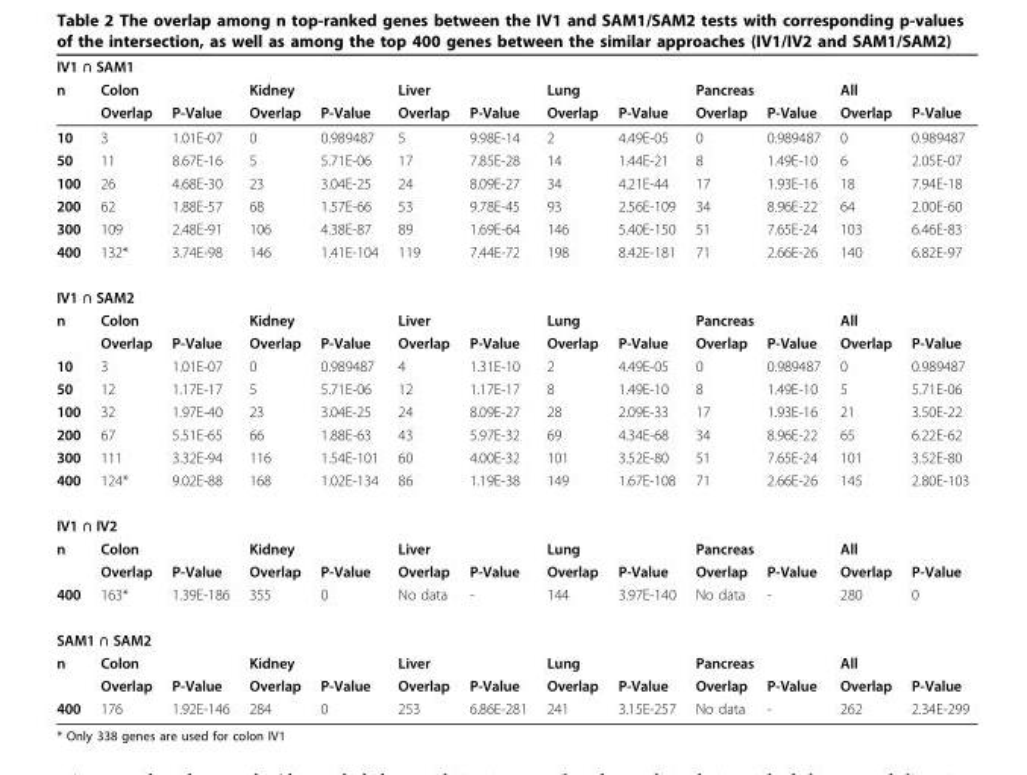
<table><thead><tr><td colspan="13">IV1 ∩ SAM1</td></tr><tr><td rowspan="2">n</td><td colspan="2">Colon</td><td colspan="2">Kidney</td><td colspan="2">Liver</td><td colspan="2">Lung</td><td colspan="2">Pancreas</td><td colspan="2">All</td></tr><tr><td>Overlap</td><td>P-Value</td><td>Overlap</td><td>P-Value</td><td>Overlap</td><td>P-Value</td><td>Overlap</td><td>P-Value</td><td>Overlap</td><td>P-Value</td><td>Overlap</td><td>P-Value</td></tr></thead><tbody><tr><td>10</td><td>3</td><td>1.01E-07</td><td>0</td><td>0.989487</td><td>5</td><td>9.98E-14</td><td>2</td><td>4.49E-05</td><td>0</td><td>0.989487</td><td>0</td><td>0.989487</td></tr><tr><td>50</td><td>11</td><td>8.67E-16</td><td>5</td><td>5.71E-06</td><td>17</td><td>7.85E-28</td><td>14</td><td>1.44E-21</td><td>8</td><td>1.49E-10</td><td>6</td><td>2.05E-07</td></tr><tr><td>100</td><td>26</td><td>4.68E-30</td><td>23</td><td>3.04E-25</td><td>24</td><td>8.09E-27</td><td>34</td><td>4.21E-44</td><td>17</td><td>1.93E-16</td><td>18</td><td>7.94E-18</td></tr><tr><td>200</td><td>62</td><td>1.88E-57</td><td>68</td><td>1.57E-66</td><td>53</td><td>9.78E-45</td><td>93</td><td>2.56E-109</td><td>34</td><td>8.96E-22</td><td>64</td><td>2.00E-60</td></tr><tr><td>300</td><td>109</td><td>2.48E-91</td><td>106</td><td>4.38E-87</td><td>89</td><td>1.69E-64</td><td>146</td><td>5.40E-150</td><td>51</td><td>7.65E-24</td><td>103</td><td>6.46E-83</td></tr><tr><td>400</td><td>132*</td><td>3.74E-98</td><td>146</td><td>1.41E-104</td><td>119</td><td>7.44E-72</td><td>198</td><td>8.42E-181</td><td>71</td><td>2.66E-26</td><td>140</td><td>6.82E-97</td></tr><tr><td colspan="13">IV1 ∩ SAM2</td></tr><tr><td rowspan="2">n</td><td colspan="2">Colon</td><td colspan="2">Kidney</td><td colspan="2">Liver</td><td colspan="2">Lung</td><td colspan="2">Pancreas</td><td colspan="2">All</td></tr><tr><td>Overlap</td><td>P-Value</td><td>Overlap</td><td>P-Value</td><td>Overlap</td><td>P-Value</td><td>Overlap</td><td>P-Value</td><td>Overlap</td><td>P-Value</td><td>Overlap</td><td>P-Value</td></tr><tr><td>10</td><td>3</td><td>1.01E-07</td><td>0</td><td>0.989487</td><td>4</td><td>1.31E-10</td><td>2</td><td>4.49E-05</td><td>0</td><td>0.989487</td><td>0</td><td>0.989487</td></tr><tr><td>50</td><td>12</td><td>1.17E-17</td><td>5</td><td>5.71E-06</td><td>12</td><td>1.17E-17</td><td>8</td><td>1.49E-10</td><td>8</td><td>1.49E-10</td><td>5</td><td>5.71E-06</td></tr><tr><td>100</td><td>32</td><td>1.97E-40</td><td>23</td><td>3.04E-25</td><td>24</td><td>8.09E-27</td><td>28</td><td>2.09E-33</td><td>17</td><td>1.93E-16</td><td>21</td><td>3.50E-22</td></tr><tr><td>200</td><td>67</td><td>5.51E-65</td><td>66</td><td>1.88E-63</td><td>43</td><td>5.97E-32</td><td>69</td><td>4.34E-68</td><td>34</td><td>8.96E-22</td><td>65</td><td>6.22E-62</td></tr><tr><td>300</td><td>111</td><td>3.32E-94</td><td>116</td><td>1.54E-101</td><td>60</td><td>4.00E-32</td><td>101</td><td>3.52E-80</td><td>51</td><td>7.65E-24</td><td>101</td><td>3.52E-80</td></tr><tr><td>400</td><td>124*</td><td>9.02E-88</td><td>168</td><td>1.02E-134</td><td>86</td><td>1.19E-38</td><td>149</td><td>1.67E-108</td><td>71</td><td>2.66E-26</td><td>145</td><td>2.80E-103</td></tr><tr><td colspan="13">IV1 ∩ IV2</td></tr><tr><td rowspan="2">n</td><td colspan="2">Colon</td><td colspan="2">Kidney</td><td colspan="2">Liver</td><td colspan="2">Lung</td><td colspan="2">Pancreas</td><td colspan="2">All</td></tr><tr><td>Overlap</td><td>P-Value</td><td>Overlap</td><td>P-Value</td><td>Overlap</td><td>P-Value</td><td>Overlap</td><td>P-Value</td><td>Overlap</td><td>P-Value</td><td>Overlap</td><td>P-Value</td></tr><tr><td>400</td><td>163*</td><td>1.39E-186</td><td>355</td><td>0</td><td>No data</td><td>-</td><td>144</td><td>3.97E-140</td><td>No data</td><td>-</td><td>280</td><td>0</td></tr><tr><td colspan="13">SAM1 ∩ SAM2</td></tr><tr><td rowspan="2">n</td><td colspan="2">Colon</td><td colspan="2">Kidney</td><td colspan="2">Liver</td><td colspan="2">Lung</td><td colspan="2">Pancreas</td><td colspan="2">All</td></tr><tr><td>Overlap</td><td>P-Value</td><td>Overlap</td><td>P-Value</td><td>Overlap</td><td>P-Value</td><td>Overlap</td><td>P-Value</td><td>Overlap</td><td>P-Value</td><td>Overlap</td><td>P-Value</td></tr><tr><td>400</td><td>176</td><td>1.92E-146</td><td>284</td><td>0</td><td>253</td><td>6.86E-281</td><td>241</td><td>3.15E-257</td><td>No data</td><td>-</td><td>262</td><td>2.34E-299</td></tr></tbody></table>